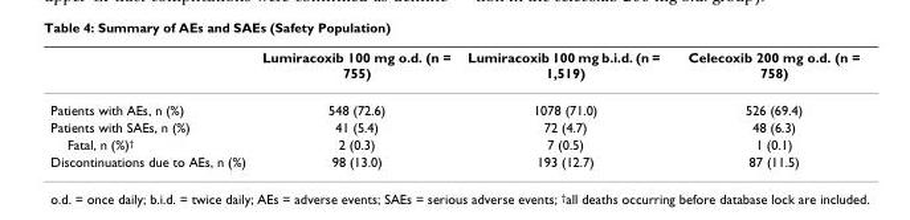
<table><thead><tr><td></td><td>Lumiracoxib 100 mg o.d. (n = 755)</td><td>Lumiracoxib 100 mg b.i.d. (n = 1,519)</td><td>Celecoxib 200 mg o.d. (n = 758)</td></tr></thead><tbody><tr><td>Patients with AEs, n (%)</td><td>548 (72.6)</td><td>1078 (71.0)</td><td>526 (69.4)</td></tr><tr><td>Patients with SAEs, n (%)</td><td>41 (5.4)</td><td>72 (4.7)</td><td>48 (6.3)</td></tr><tr><td>Fatal, n (%)<sup>†</sup></td><td>2 (0.3)</td><td>7 (0.5)</td><td>1 (0.1)</td></tr><tr><td>Discontinuations due to AEs, n (%)</td><td>98 (13.0)</td><td>193 (12.7)</td><td>87 (11.5)</td></tr></tbody></table>